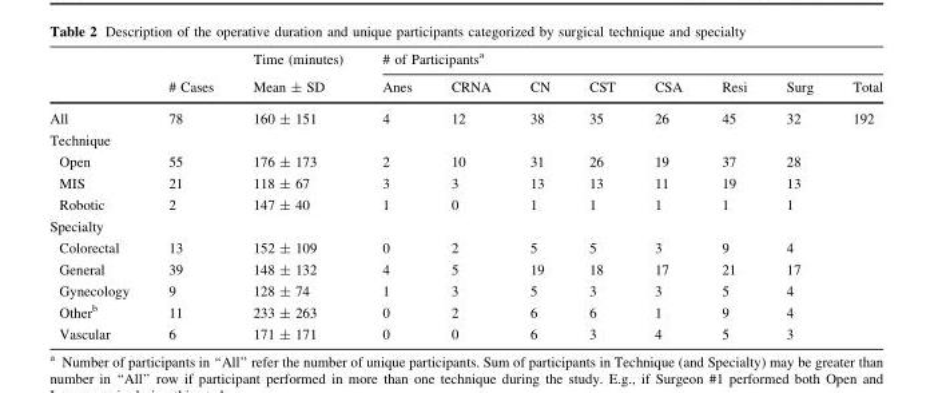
<table><thead><tr><td rowspan="2"></td><td rowspan="2"># Cases</td><td rowspan="2">Time (minutes) Mean ± SD</td><td colspan="8"># of Participants<sup>a</sup></td></tr><tr><td>Anes</td><td>CRNA</td><td>CN</td><td>CST</td><td>CSA</td><td>Resi</td><td>Surg</td><td>Total</td></tr></thead><tbody><tr><td>All</td><td>78</td><td>160 ± 151</td><td>4</td><td>12</td><td>38</td><td>35</td><td>26</td><td>45</td><td>32</td><td>192</td></tr><tr><td colspan="11">Technique</td></tr><tr><td>Open</td><td>55</td><td>176 ± 173</td><td>2</td><td>10</td><td>31</td><td>26</td><td>19</td><td>37</td><td>28</td><td></td></tr><tr><td>MIS</td><td>21</td><td>118 ± 67</td><td>3</td><td>3</td><td>13</td><td>13</td><td>11</td><td>19</td><td>13</td><td></td></tr><tr><td>Robotic</td><td>2</td><td>147 ± 40</td><td>1</td><td>0</td><td>1</td><td>1</td><td>1</td><td>1</td><td>1</td><td></td></tr><tr><td colspan="11">Specialty</td></tr><tr><td>Colorectal</td><td>13</td><td>152 ± 109</td><td>0</td><td>2</td><td>5</td><td>5</td><td>3</td><td>9</td><td>4</td><td></td></tr><tr><td>General</td><td>39</td><td>148 ± 132</td><td>4</td><td>5</td><td>19</td><td>18</td><td>17</td><td>21</td><td>17</td><td></td></tr><tr><td>Gynecology</td><td>9</td><td>128 ± 74</td><td>1</td><td>3</td><td>5</td><td>3</td><td>3</td><td>5</td><td>4</td><td></td></tr><tr><td>Other<sup>b</sup></td><td>11</td><td>233 ± 263</td><td>0</td><td>2</td><td>6</td><td>6</td><td>1</td><td>9</td><td>4</td><td></td></tr><tr><td>Vascular</td><td>6</td><td>171 ± 171</td><td>0</td><td>0</td><td>6</td><td>3</td><td>4</td><td>5</td><td>3</td><td></td></tr></tbody></table>